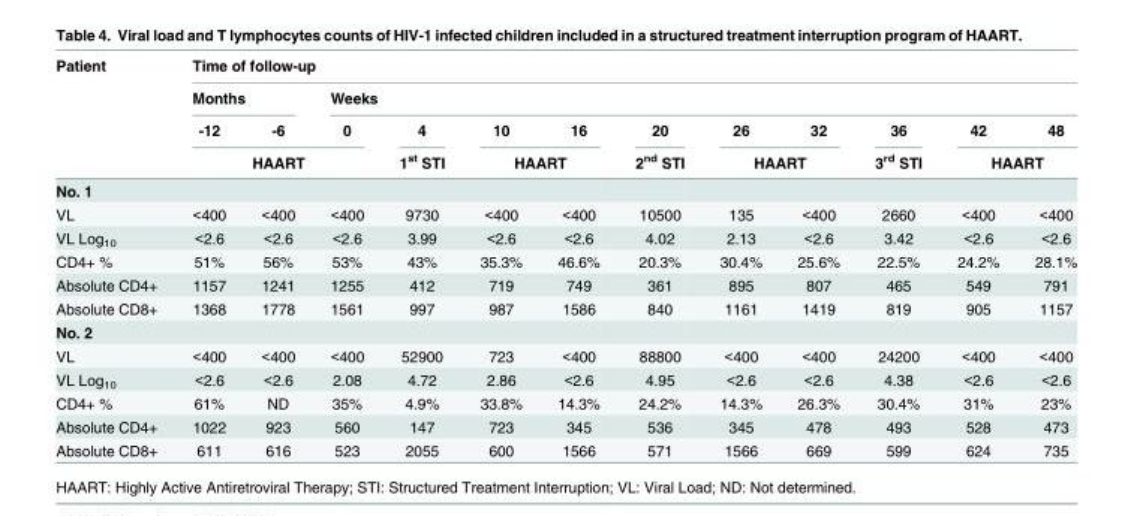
<table><thead><tr><td rowspan="4">Patient</td><td colspan="12">Time of follow-up</td></tr><tr><td colspan="2">Months</td><td colspan="10">Weeks</td></tr><tr><td>-12</td><td>-6</td><td>0</td><td rowspan="2">4 1<sup>st</sup> STI</td><td>10</td><td>16</td><td rowspan="2">20 2<sup>nd</sup> STI</td><td>26</td><td>32</td><td rowspan="2">36 3<sup>rd</sup> STI</td><td>42</td><td>48</td></tr><tr><td colspan="3">HAART</td><td colspan="2">HAART</td><td colspan="2">HAART</td><td colspan="2">HAART</td></tr></thead><tbody><tr><td colspan="13">No. 1</td></tr><tr><td>VL</td><td>&lt;400</td><td>&lt;400</td><td>&lt;400</td><td>9730</td><td>&lt;400</td><td>&lt;400</td><td>10500</td><td>135</td><td>&lt;400</td><td>2660</td><td>&lt;400</td><td>&lt;400</td></tr><tr><td>VL Log<sub>10</sub></td><td>&lt;2.6</td><td>&lt;2.6</td><td>&lt;2.6</td><td>3.99</td><td>&lt;2.6</td><td>&lt;2.6</td><td>4.02</td><td>2.13</td><td>&lt;2.6</td><td>3.42</td><td>&lt;2.6</td><td>&lt;2.6</td></tr><tr><td>CD4+ %</td><td>51%</td><td>56%</td><td>53%</td><td>43%</td><td>35.3%</td><td>46.6%</td><td>20.3%</td><td>30.4%</td><td>25.6%</td><td>22.5%</td><td>24.2%</td><td>28.1%</td></tr><tr><td>Absolute CD4+</td><td>1157</td><td>1241</td><td>1255</td><td>412</td><td>719</td><td>749</td><td>361</td><td>895</td><td>807</td><td>465</td><td>549</td><td>791</td></tr><tr><td>Absolute CD8+</td><td>1368</td><td>1778</td><td>1561</td><td>997</td><td>987</td><td>1586</td><td>840</td><td>1161</td><td>1419</td><td>819</td><td>905</td><td>1157</td></tr><tr><td colspan="13">No. 2</td></tr><tr><td>VL</td><td>&lt;400</td><td>&lt;400</td><td>&lt;400</td><td>52900</td><td>723</td><td>&lt;400</td><td>88800</td><td>&lt;400</td><td>&lt;400</td><td>24200</td><td>&lt;400</td><td>&lt;400</td></tr><tr><td>VL Log<sub>10</sub></td><td>&lt;2.6</td><td>&lt;2.6</td><td>2.08</td><td>4.72</td><td>2.86</td><td>&lt;2.6</td><td>4.95</td><td>&lt;2.6</td><td>&lt;2.6</td><td>4.38</td><td>&lt;2.6</td><td>&lt;2.6</td></tr><tr><td>CD4+ %</td><td>61%</td><td>ND</td><td>35%</td><td>4.9%</td><td>33.8%</td><td>14.3%</td><td>24.2%</td><td>14.3%</td><td>26.3%</td><td>30.4%</td><td>31%</td><td>23%</td></tr><tr><td>Absolute CD4+</td><td>1022</td><td>923</td><td>560</td><td>147</td><td>723</td><td>345</td><td>536</td><td>345</td><td>478</td><td>493</td><td>528</td><td>473</td></tr><tr><td>Absolute CD8+</td><td>611</td><td>616</td><td>523</td><td>2055</td><td>600</td><td>1566</td><td>571</td><td>1566</td><td>669</td><td>599</td><td>624</td><td>735</td></tr></tbody></table>